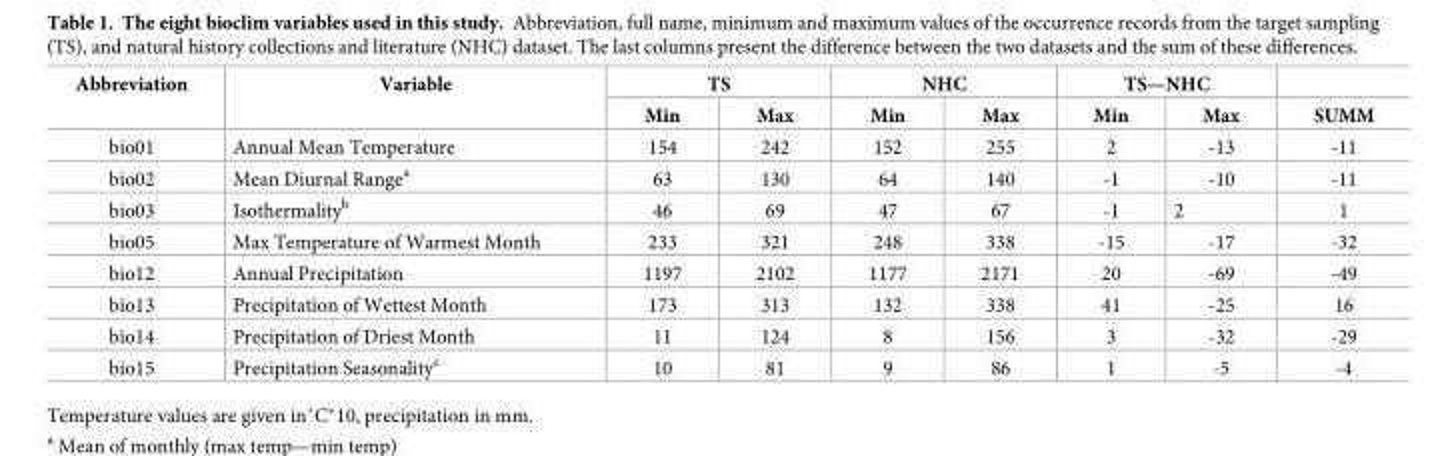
<table><thead><tr><td rowspan="2">Abbreviation</td><td rowspan="2">Variable</td><td colspan="2">TS</td><td colspan="2">NHC</td><td colspan="2">TS—NHC</td><td rowspan="2">SUMM</td></tr><tr><td>Min</td><td>Max</td><td>Min</td><td>Max</td><td>Min</td><td>Max</td></tr></thead><tbody><tr><td>bio01</td><td>Annual Mean Temperature</td><td>154</td><td>242</td><td>152</td><td>255</td><td>2</td><td>-13</td><td>-11</td></tr><tr><td>bio02</td><td>Mean Diurnal Range<sup>a</sup></td><td>63</td><td>130</td><td>64</td><td>140</td><td>-1</td><td>-10</td><td>-11</td></tr><tr><td>bio03</td><td>Isothermality<sup>b</sup></td><td>46</td><td>69</td><td>47</td><td>67</td><td>-1</td><td>2</td><td>1</td></tr><tr><td>bio05</td><td>Max Temperature of Warmest Month</td><td>233</td><td>321</td><td>248</td><td>338</td><td>-15</td><td>-17</td><td>-32</td></tr><tr><td>bio12</td><td>Annual Precipitation</td><td>1197</td><td>2102</td><td>1177</td><td>2171</td><td>20</td><td>-69</td><td>-49</td></tr><tr><td>bio13</td><td>Precipitation of Wettest Month</td><td>173</td><td>313</td><td>132</td><td>338</td><td>41</td><td>-25</td><td>16</td></tr><tr><td>bio14</td><td>Precipitation of Driest Month</td><td>11</td><td>124</td><td>8</td><td>156</td><td>3</td><td>-32</td><td>-29</td></tr><tr><td>bio15</td><td>Precipitation Seasonality<sup>c</sup></td><td>10</td><td>81</td><td>9</td><td>86</td><td>1</td><td>-5</td><td>-4</td></tr></tbody></table>